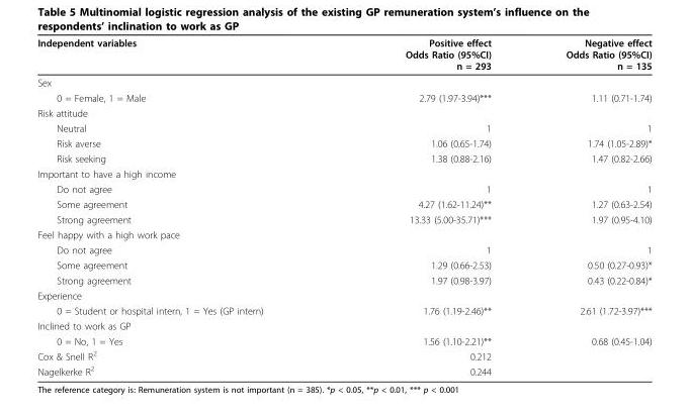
<table><thead><tr><td>Independent variables</td><td>Positive effect Odds Ratio (95%CI) n = 293</td><td>Negative effect Odds Ratio (95%CI) n = 135</td></tr></thead><tbody><tr><td colspan="3">Sex</td></tr><tr><td>0 = Female, 1 = Male</td><td>2.79 (1.97-3.94)***</td><td>1.11 (0.71-1.74)</td></tr><tr><td colspan="3">Risk attitude</td></tr><tr><td>Neutral</td><td>1</td><td>1</td></tr><tr><td>Risk averse</td><td>1.06 (0.65-1.74)</td><td>1.74 (1.05-2.89)*</td></tr><tr><td>Risk seeking</td><td>1.38 (0.88-2.16)</td><td>1.47 (0.82-2.66)</td></tr><tr><td colspan="3">Important to have a high income</td></tr><tr><td>Do not agree</td><td>1</td><td>1</td></tr><tr><td>Some agreement</td><td>4.27 (1.62-11.24)**</td><td>1.27 (0.63-2.54)</td></tr><tr><td>Strong agreement</td><td>13.33 (5.00-35.71)***</td><td>1.97 (0.95-4.10)</td></tr><tr><td colspan="3">Feel happy with a high work pace</td></tr><tr><td>Do not agree</td><td>1</td><td>1</td></tr><tr><td>Some agreement</td><td>1.29 (0.66-2.53)</td><td>0.50 (0.27-0.93)*</td></tr><tr><td>Strong agreement</td><td>1.97 (0.98-3.97)</td><td>0.43 (0.22-0.84)*</td></tr><tr><td colspan="3">Experience</td></tr><tr><td>0 = Student or hospital intern, 1 = Yes (GP intern)</td><td>1.76 (1.19-2.46)**</td><td>2.61 (1.72-3.97)***</td></tr><tr><td colspan="3">Inclined to work as GP</td></tr><tr><td>0 = No, 1 = Yes</td><td>1.56 (1.10-2.21)**</td><td>0.68 (0.45-1.04)</td></tr><tr><td>Cox &amp; Snell R<sup>2</sup></td><td>0.212</td><td></td></tr><tr><td>Nagelkerke R<sup>2</sup></td><td>0.244</td><td></td></tr></tbody></table>